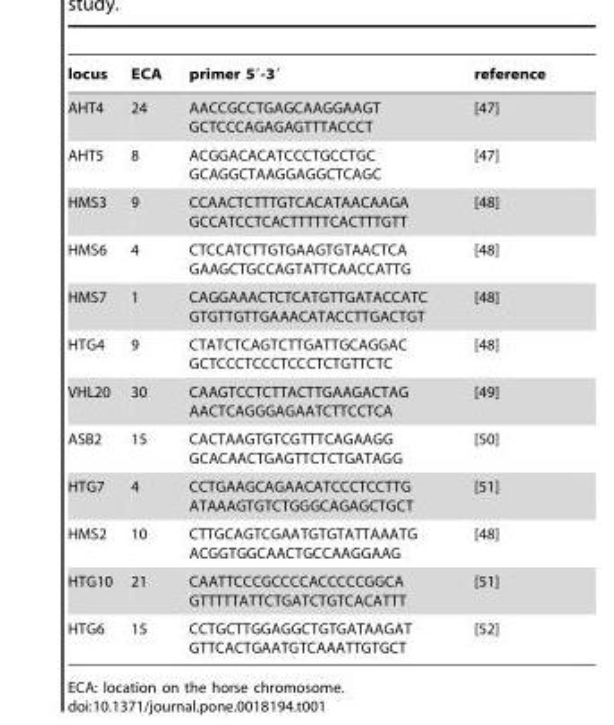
<table><thead><tr><td>locus</td><td>ECA</td><td>primer 5′-3′</td><td>reference</td></tr></thead><tbody><tr><td>AHT4</td><td>24</td><td>AACCGCCTGAGCAAGGAAGT GCTCCCAGAGAGTTTACCCT</td><td>[47]</td></tr><tr><td>AHT5</td><td>8</td><td>ACGGACACATCCCTGCCTGC GCAGGCTAAGGAGGCTCAGC</td><td>[47]</td></tr><tr><td>HMS3</td><td>9</td><td>CCAACTCTTTGTCACATAACAAGA GCCATCCTCACTTTTTCACTTTGTT</td><td>[48]</td></tr><tr><td>HMS6</td><td>4</td><td>CTCCATCTTGTGAAGTGTAACTCA GAAGCTGCCAGTATTCAACCATTG</td><td>[48]</td></tr><tr><td>HMS7</td><td>1</td><td>CAGGAAACTCTCATGTTGATACCATC GTGTTGTTGAAACATACCTTGACTGT</td><td>[48]</td></tr><tr><td>HTG4</td><td>9</td><td>CTATCTCAGTCTTGATTGCAGGAC GCTCCCTCCCTCCCTCTGTTCTC</td><td>[48]</td></tr><tr><td>VHL20</td><td>30</td><td>CAAGTCCTCTTACTTGAAGACTAG AACTCAGGGAGAATCTTCCTCA</td><td>[49]</td></tr><tr><td>ASB2</td><td>15</td><td>CACTAAGTGTCGTTTCAGAAGG GCACAACTGAGTTCTCTGATAGG</td><td>[50]</td></tr><tr><td>HTG7</td><td>4</td><td>CCTGAAGCAGAACATCCCTCCTTG ATAAAGTGTCTGGGCAGAGCTGCT</td><td>[51]</td></tr><tr><td>HMS2</td><td>10</td><td>CTTGCAGTCGAATGTGTATTAAATG ACGGTGGCAACTGCCAAGGAAG</td><td>[48]</td></tr><tr><td>HTG10</td><td>21</td><td>CAATTCCCGCCCCACCCCCGGCA GTTTTTATTCTGATCTGTCACATTT</td><td>[51]</td></tr><tr><td>HTG6</td><td>15</td><td>CCTGCTTGGAGGCTGTGATAAGAT GTTCACTGAATGTCAAATTGTGCT</td><td>[52]</td></tr></tbody></table>